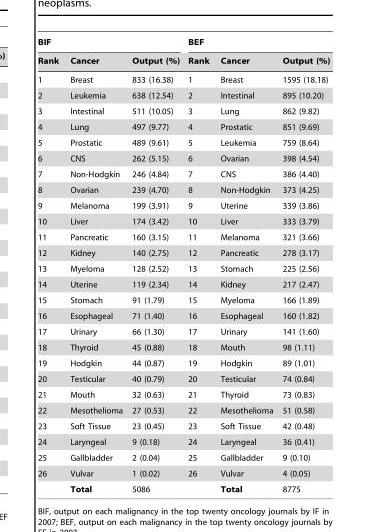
<table><thead><tr><td colspan="3">BIF</td><td colspan="3">BEF</td></tr><tr><td>Rank</td><td>Cancer</td><td>Output (%)</td><td>Rank</td><td>Cancer</td><td>Output (%)</td></tr></thead><tbody><tr><td>1</td><td>Breast</td><td>833 (16.38)</td><td>1</td><td>Breast</td><td>1595 (18.18)</td></tr><tr><td>2</td><td>Leukemia</td><td>638 (12.54)</td><td>2</td><td>Intestinal</td><td>895 (10.20)</td></tr><tr><td>3</td><td>Intestinal</td><td>511 (10.05)</td><td>3</td><td>Lung</td><td>862 (9.82)</td></tr><tr><td>4</td><td>Lung</td><td>497 (9.77)</td><td>4</td><td>Prostatic</td><td>851 (9.69)</td></tr><tr><td>5</td><td>Prostatic</td><td>489 (9.61)</td><td>5</td><td>Leukemia</td><td>759 (8.64)</td></tr><tr><td>6</td><td>CNS</td><td>262 (5.15)</td><td>6</td><td>Ovarian</td><td>398 (4.54)</td></tr><tr><td>7</td><td>Non-Hodgkin</td><td>246 (4.84)</td><td>7</td><td>CNS</td><td>386 (4.40)</td></tr><tr><td>8</td><td>Ovarian</td><td>239 (4.70)</td><td>8</td><td>Non-Hodgkin</td><td>373 (4.25)</td></tr><tr><td>9</td><td>Melanoma</td><td>199 (3.91)</td><td>9</td><td>Uterine</td><td>339 (3.86)</td></tr><tr><td>10</td><td>Liver</td><td>174 (3.42)</td><td>10</td><td>Liver</td><td>333 (3.79)</td></tr><tr><td>11</td><td>Pancreatic</td><td>160 (3.15)</td><td>11</td><td>Melanoma</td><td>321 (3.66)</td></tr><tr><td>12</td><td>Kidney</td><td>140 (2.75)</td><td>12</td><td>Pancreatic</td><td>278 (3.17)</td></tr><tr><td>13</td><td>Myeloma</td><td>128 (2.52)</td><td>13</td><td>Stomach</td><td>225 (2.56)</td></tr><tr><td>14</td><td>Uterine</td><td>119 (2.34)</td><td>14</td><td>Kidney</td><td>217 (2.47)</td></tr><tr><td>15</td><td>Stomach</td><td>91 (1.79)</td><td>15</td><td>Myeloma</td><td>166 (1.89)</td></tr><tr><td>16</td><td>Esophageal</td><td>71 (1.40)</td><td>16</td><td>Esophageal</td><td>160 (1.82)</td></tr><tr><td>17</td><td>Urinary</td><td>66 (1.30)</td><td>17</td><td>Urinary</td><td>141 (1.60)</td></tr><tr><td>18</td><td>Thyroid</td><td>45 (0.88)</td><td>18</td><td>Mouth</td><td>98 (1.11)</td></tr><tr><td>19</td><td>Hodgkin</td><td>44 (0.87)</td><td>19</td><td>Hodgkin</td><td>89 (1.01)</td></tr><tr><td>20</td><td>Testicular</td><td>40 (0.79)</td><td>20</td><td>Testicular</td><td>74 (0.84)</td></tr><tr><td>21</td><td>Mouth</td><td>32 (0.63)</td><td>21</td><td>Thyroid</td><td>73 (0.83)</td></tr><tr><td>22</td><td>Mesothelioma</td><td>27 (0.53)</td><td>22</td><td>Mesothelioma</td><td>51 (0.58)</td></tr><tr><td>23</td><td>Soft Tissue</td><td>23 (0.45)</td><td>23</td><td>Soft Tissue</td><td>42 (0.48)</td></tr><tr><td>24</td><td>Laryngeal</td><td>9 (0.18)</td><td>24</td><td>Laryngeal</td><td>36 (0.41)</td></tr><tr><td>25</td><td>Gallbladder</td><td>2 (0.04)</td><td>25</td><td>Gallbladder</td><td>9 (0.10)</td></tr><tr><td rowspan="2">26</td><td>Vulvar</td><td>1 (0.02)</td><td>26</td><td>Vulvar</td><td>4 (0.05)</td></tr><tr><td>Total</td><td>5086</td><td></td><td>Total</td><td>8775</td></tr></tbody></table>